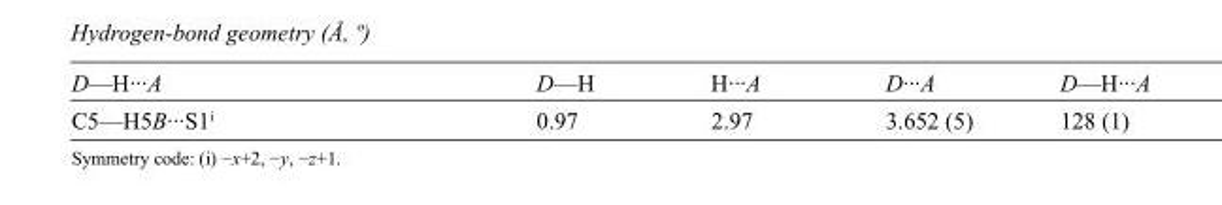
<table><tbody><tr><td>D—H···A</td><td>D—H</td><td>H···A</td><td>D···A</td><td>D—H···A</td></tr><tr><td>C5—H5B···S1<sup>i</sup></td><td>0.97</td><td>2.97</td><td>3.652 (5)</td><td>128 (1)</td></tr></tbody></table>